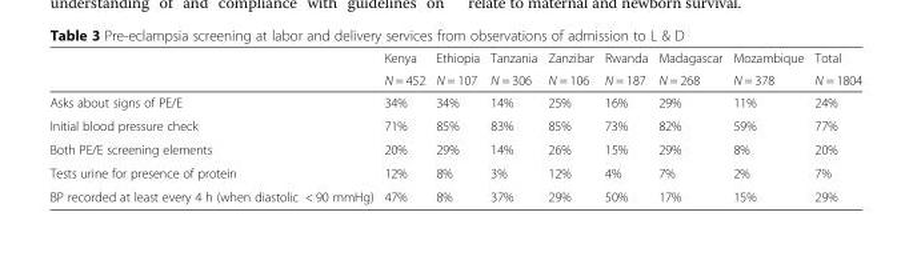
<table><thead><tr><td rowspan="2"></td><td rowspan="2">Kenya N = 452</td><td rowspan="2">Ethiopia N = 107</td><td rowspan="2">Tanzania N = 306</td><td rowspan="2">Zanzibar N = 106</td><td rowspan="2">Rwanda N = 187</td><td rowspan="2">Madagascar N = 268</td><td rowspan="2">Mozambique N = 378</td><td rowspan="2">Total N = 1804</td></tr><tr></tr></thead><tbody><tr><td>Asks about signs of PE/E</td><td>34%</td><td>34%</td><td>14%</td><td>25%</td><td>16%</td><td>29%</td><td>11%</td><td>24%</td></tr><tr><td>Initial blood pressure check</td><td>71%</td><td>85%</td><td>83%</td><td>85%</td><td>73%</td><td>82%</td><td>59%</td><td>77%</td></tr><tr><td>Both PE/E screening elements</td><td>20%</td><td>29%</td><td>14%</td><td>26%</td><td>15%</td><td>29%</td><td>8%</td><td>20%</td></tr><tr><td>Tests urine for presence of protein</td><td>12%</td><td>8%</td><td>3%</td><td>12%</td><td>4%</td><td>7%</td><td>2%</td><td>7%</td></tr><tr><td>BP recorded at least every 4 h (when diastolic &lt; 90 mmHg)</td><td>47%</td><td>8%</td><td>37%</td><td>29%</td><td>50%</td><td>17%</td><td>15%</td><td>29%</td></tr></tbody></table>